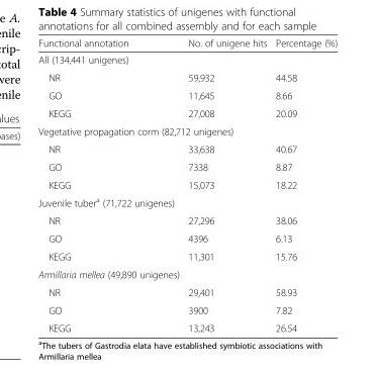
<table><thead><tr><td>Functional annotation</td><td>No. of unigene hits</td><td>Percentage (%)</td></tr></thead><tbody><tr><td colspan="3">All (134,441 unigenes)</td></tr><tr><td>NR</td><td>59,932</td><td>44.58</td></tr><tr><td>GO</td><td>11,645</td><td>8.66</td></tr><tr><td>KEGG</td><td>27,008</td><td>20.09</td></tr><tr><td colspan="3">Vegetative propagation corm (82,712 unigenes)</td></tr><tr><td>NR</td><td>33,638</td><td>40.67</td></tr><tr><td>GO</td><td>7338</td><td>8.87</td></tr><tr><td>KEGG</td><td>15,073</td><td>18.22</td></tr><tr><td colspan="3">Juvenile tuber<sup>a</sup> (71,722 unigenes)</td></tr><tr><td>NR</td><td>27,296</td><td>38.06</td></tr><tr><td>GO</td><td>4396</td><td>6.13</td></tr><tr><td>KEGG</td><td>11,301</td><td>15.76</td></tr><tr><td colspan="3">Armillaria mellea (49,890 unigenes)</td></tr><tr><td>NR</td><td>29,401</td><td>58.93</td></tr><tr><td>GO</td><td>3900</td><td>7.82</td></tr><tr><td>KEGG</td><td>13,243</td><td>26.54</td></tr></tbody></table>